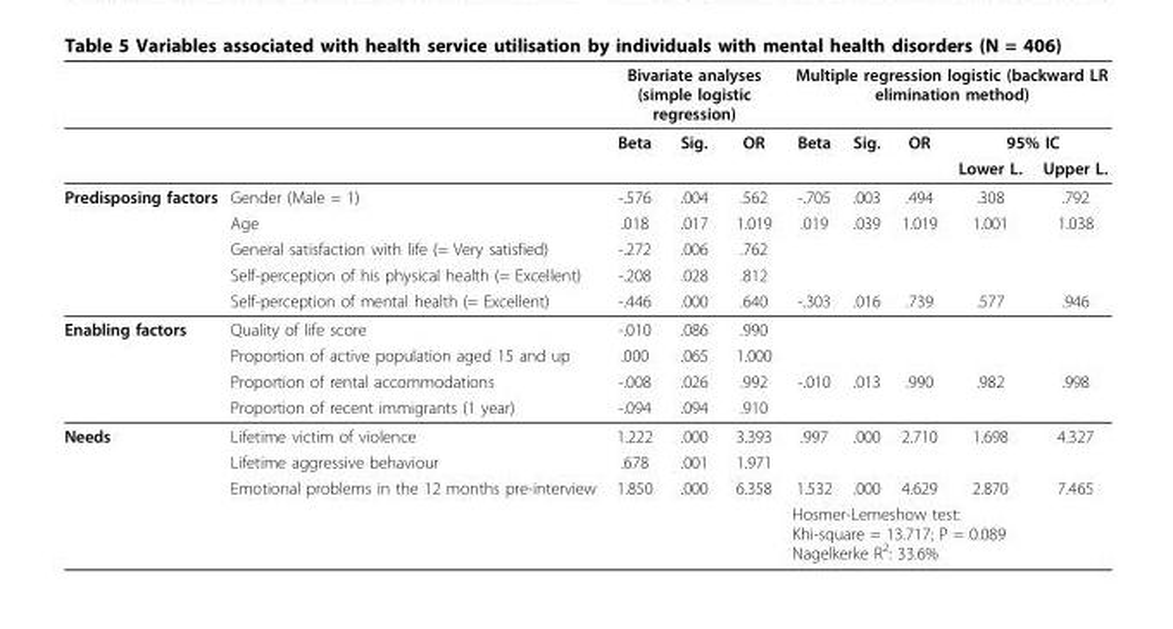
<table><thead><tr><td rowspan="3"></td><td rowspan="3"></td><td colspan="3">Bivariate analyses (simple logistic regression)</td><td colspan="5">Multiple regression logistic (backward LR elimination method)</td></tr><tr><td rowspan="2">Beta</td><td rowspan="2">Sig.</td><td rowspan="2">OR</td><td rowspan="2">Beta</td><td rowspan="2">Sig.</td><td rowspan="2">OR</td><td colspan="2">95% IC</td></tr><tr><td>Lower L.</td><td>Upper L.</td></tr></thead><tbody><tr><td rowspan="5">Predisposing factors</td><td>Gender (Male = 1)</td><td>-.576</td><td>.004</td><td>.562</td><td>-.705</td><td>.003</td><td>.494</td><td>.308</td><td>.792</td></tr><tr><td>Age</td><td>.018</td><td>.017</td><td>1.019</td><td>.019</td><td>.039</td><td>1.019</td><td>1.001</td><td>1.038</td></tr><tr><td>General satisfaction with life (= Very satisfied)</td><td>-.272</td><td>.006</td><td>.762</td><td></td><td></td><td></td><td></td><td></td></tr><tr><td>Self-perception of his physical health (= Excellent)</td><td>-.208</td><td>.028</td><td>.812</td><td></td><td></td><td></td><td></td><td></td></tr><tr><td>Self-perception of mental health (= Excellent)</td><td>-.446</td><td>.000</td><td>.640</td><td>-.303</td><td>.016</td><td>.739</td><td>.577</td><td>.946</td></tr><tr><td rowspan="4">Enabling factors</td><td>Quality of life score</td><td>-.010</td><td>.086</td><td>.990</td><td></td><td></td><td></td><td></td><td></td></tr><tr><td>Proportion of active population aged 15 and up</td><td>.000</td><td>.065</td><td>1.000</td><td></td><td></td><td></td><td></td><td></td></tr><tr><td>Proportion of rental accommodations</td><td>-.008</td><td>.026</td><td>.992</td><td>-.010</td><td>.013</td><td>.990</td><td>.982</td><td>.998</td></tr><tr><td>Proportion of recent immigrants (1 year)</td><td>-.094</td><td>.094</td><td>.910</td><td></td><td></td><td></td><td></td><td></td></tr><tr><td rowspan="4">Needs</td><td>Lifetime victim of violence</td><td>1.222</td><td>.000</td><td>3.393</td><td>.997</td><td>.000</td><td>2.710</td><td>1.698</td><td>4.327</td></tr><tr><td>Lifetime aggressive behaviour</td><td>.678</td><td>.001</td><td>1.971</td><td></td><td></td><td></td><td></td><td></td></tr><tr><td>Emotional problems in the 12 months pre-interview</td><td>1.850</td><td>.000</td><td>6.358</td><td>1.532</td><td>.000</td><td>4.629</td><td>2.870</td><td>7.465</td></tr><tr><td></td><td></td><td></td><td></td><td colspan="4">Hosmer-Lemeshow test: Khi-square = 13.717; P = 0.089 Nagelkerke R<sup>2</sup>: 33.6%</td><td></td></tr></tbody></table>